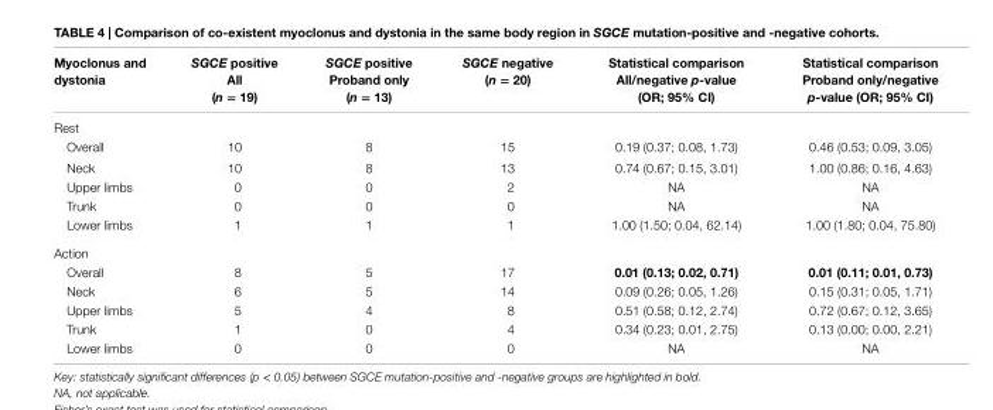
<table><thead><tr><td>Myoclonus and dystonia</td><td>SGCE positive all (n = 19)</td><td>SGCE positive Proband only (n = 13)</td><td>SGCE negative (n = 20)</td><td>statistical comparison all/negative p-value (Or; 95% ci)</td><td>statistical comparison Proband only/negative p-value (Or; 95% ci)</td></tr></thead><tbody><tr><td colspan="6">Rest</td></tr><tr><td>Overall</td><td>10</td><td>8</td><td>15</td><td>0.19 (0.37; 0.08, 1.73)</td><td>0.46 (0.53; 0.09, 3.05)</td></tr><tr><td>Neck</td><td>10</td><td>8</td><td>13</td><td>0.74 (0.67; 0.15, 3.01)</td><td>1.00 (0.86; 0.16, 4.63)</td></tr><tr><td>Upper limbs</td><td>0</td><td>0</td><td>2</td><td>NA</td><td>NA</td></tr><tr><td>Trunk</td><td>0</td><td>0</td><td>0</td><td>NA</td><td>NA</td></tr><tr><td>Lower limbs</td><td>1</td><td>1</td><td>1</td><td>1.00 (1.50; 0.04, 62.14)</td><td>1.00 (1.80; 0.04, 75.80)</td></tr><tr><td colspan="6">Action</td></tr><tr><td>Overall</td><td>8</td><td>5</td><td>17</td><td>0.01 (0.13; 0.02, 0.71)</td><td>0.01 (0.11; 0.01, 0.73)</td></tr><tr><td>Neck</td><td>6</td><td>5</td><td>14</td><td>0.09 (0.26; 0.05, 1.26)</td><td>0.15 (0.31; 0.05, 1.71)</td></tr><tr><td>Upper limbs</td><td>5</td><td>4</td><td>8</td><td>0.51 (0.58; 0.12, 2.74)</td><td>0.72 (0.67; 0.12, 3.65)</td></tr><tr><td>Trunk</td><td>1</td><td>0</td><td>4</td><td>0.34 (0.23; 0.01, 2.75)</td><td>0.13 (0.00; 0.00, 2.21)</td></tr><tr><td>Lower limbs</td><td>0</td><td>0</td><td>0</td><td>NA</td><td>NA</td></tr></tbody></table>